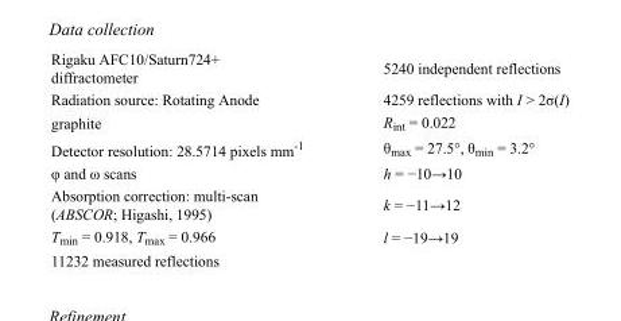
<table><tbody><tr><td>Rigaku AFC10/Saturn724+ diffractometer</td><td>5240 independent reflections</td></tr><tr><td>Radiation source: Rotating Anode</td><td>4259 reflections with I &gt; 2σ(I)</td></tr><tr><td>graphite</td><td>R<sub>int</sub> = 0.022</td></tr><tr><td>Detector resolution: 28.5714 pixels mm<sup>-1</sup></td><td>θ<sub>max</sub> = 27.5°, θ<sub>min</sub> = 3.2°</td></tr><tr><td>φ and ω scans</td><td>h = −10→10</td></tr><tr><td>Absorption correction: multi-scan (ABSCOR; Higashi, 1995)</td><td>k = −11→12</td></tr><tr><td>T<sub>min</sub> = 0.918, T<sub>max</sub> = 0.966</td><td>l = −19→19</td></tr><tr><td>11232 measured reflections</td><td></td></tr></tbody></table>